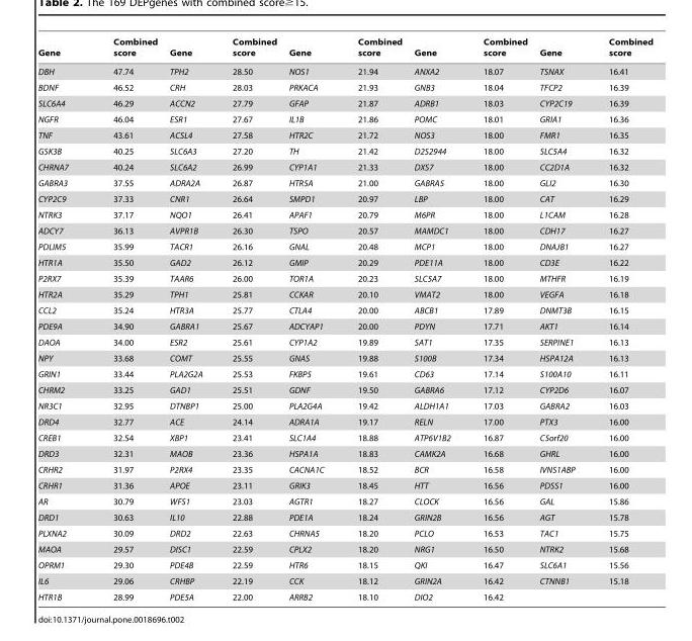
<table><thead><tr><td>Gene</td><td>Combined score</td><td>Gene</td><td>Combined score</td><td>Gene</td><td>Combined score</td><td>Gene</td><td>Combined score</td><td>Gene</td><td>Combined score</td></tr></thead><tbody><tr><td>DBH</td><td>47.74</td><td>TPH2</td><td>28.50</td><td>NOS1</td><td>21.94</td><td>ANXA2</td><td>18.07</td><td>TSNAX</td><td>16.41</td></tr><tr><td>BDNF</td><td>46.52</td><td>CRH</td><td>28.03</td><td>PRKACA</td><td>21.93</td><td>GNB3</td><td>18.04</td><td>TFCP2</td><td>16.39</td></tr><tr><td>SLC6A4</td><td>46.29</td><td>ACCN2</td><td>27.79</td><td>GFAP</td><td>21.87</td><td>ADRB1</td><td>18.03</td><td>CYP2C19</td><td>16.39</td></tr><tr><td>NGFR</td><td>46.04</td><td>ESR1</td><td>27.67</td><td>IL1B</td><td>21.86</td><td>POMC</td><td>18.01</td><td>GRIA1</td><td>16.36</td></tr><tr><td>TNF</td><td>43.61</td><td>ACSL4</td><td>27.58</td><td>HTR2C</td><td>21.72</td><td>NOS3</td><td>18.00</td><td>FMR1</td><td>16.35</td></tr><tr><td>GSK3B</td><td>40.25</td><td>SLC6A3</td><td>27.20</td><td>TH</td><td>21.42</td><td>D2S2944</td><td>18.00</td><td>SLC5A4</td><td>16.32</td></tr><tr><td>CHRNA7</td><td>40.24</td><td>SLC6A2</td><td>26.99</td><td>CYP1A1</td><td>21.33</td><td>DXS7</td><td>18.00</td><td>CC2D1A</td><td>16.32</td></tr><tr><td>GABRA3</td><td>37.55</td><td>ADRA2A</td><td>26.87</td><td>HTR5A</td><td>21.00</td><td>GABRA5</td><td>18.00</td><td>GLI2</td><td>16.30</td></tr><tr><td>CYP2C9</td><td>37.33</td><td>CNR1</td><td>26.64</td><td>SMPD1</td><td>20.97</td><td>LBP</td><td>18.00</td><td>CAT</td><td>16.29</td></tr><tr><td>NTRK3</td><td>37.17</td><td>NQO1</td><td>26.41</td><td>APAF1</td><td>20.79</td><td>M6PR</td><td>18.00</td><td>L1CAM</td><td>16.28</td></tr><tr><td>ADCY7</td><td>36.13</td><td>AVPR1B</td><td>26.30</td><td>TSPO</td><td>20.57</td><td>MAMDC1</td><td>18.00</td><td>CDH17</td><td>16.27</td></tr><tr><td>PDLIM5</td><td>35.99</td><td>TACR1</td><td>26.16</td><td>GNAL</td><td>20.48</td><td>MCP1</td><td>18.00</td><td>DNAJB1</td><td>16.27</td></tr><tr><td>HTR1A</td><td>35.50</td><td>GAD2</td><td>26.12</td><td>GMIP</td><td>20.29</td><td>PDE11A</td><td>18.00</td><td>CD3E</td><td>16.22</td></tr><tr><td>P2RX7</td><td>35.39</td><td>TAAR6</td><td>26.00</td><td>TOR1A</td><td>20.23</td><td>SLC5A7</td><td>18.00</td><td>MTHFR</td><td>16.19</td></tr><tr><td>HTR2A</td><td>35.29</td><td>TPH1</td><td>25.81</td><td>CCKAR</td><td>20.10</td><td>VMAT2</td><td>18.00</td><td>VEGFA</td><td>16.18</td></tr><tr><td>CCL2</td><td>35.24</td><td>HTR3A</td><td>25.77</td><td>CTLA4</td><td>20.00</td><td>ABCB1</td><td>17.89</td><td>DNMT3B</td><td>16.15</td></tr><tr><td>PDE9A</td><td>34.90</td><td>GABRA1</td><td>25.67</td><td>ADCYAP1</td><td>20.00</td><td>PDYN</td><td>17.71</td><td>AKT1</td><td>16.14</td></tr><tr><td>DAOA</td><td>34.00</td><td>ESR2</td><td>25.61</td><td>CYP1A2</td><td>19.89</td><td>SAT1</td><td>17.35</td><td>SERPINE1</td><td>16.13</td></tr><tr><td>NPY</td><td>33.68</td><td>COMT</td><td>25.55</td><td>GNAS</td><td>19.88</td><td>S100B</td><td>17.34</td><td>HSPA12A</td><td>16.13</td></tr><tr><td>GRIN1</td><td>33.44</td><td>PLA2G2A</td><td>25.53</td><td>FKBP5</td><td>19.61</td><td>CD63</td><td>17.14</td><td>S100A10</td><td>16.11</td></tr><tr><td>CHRM2</td><td>33.25</td><td>GAD1</td><td>25.51</td><td>GDNF</td><td>19.50</td><td>GABRA6</td><td>17.12</td><td>CYP2D6</td><td>16.07</td></tr><tr><td>NR3C1</td><td>32.95</td><td>DTNBP1</td><td>25.00</td><td>PLA2G4A</td><td>19.42</td><td>ALDH1A1</td><td>17.03</td><td>GABRA2</td><td>16.03</td></tr><tr><td>DRD4</td><td>32.77</td><td>ACE</td><td>24.14</td><td>ADRA1A</td><td>19.17</td><td>RELN</td><td>17.00</td><td>PTX3</td><td>16.00</td></tr><tr><td>CREB1</td><td>32.54</td><td>XBP1</td><td>23.41</td><td>SLC1A4</td><td>18.88</td><td>ATP6V1B2</td><td>16.87</td><td>C5orf20</td><td>16.00</td></tr><tr><td>DRD3</td><td>32.31</td><td>MAOB</td><td>23.36</td><td>HSPA1A</td><td>18.83</td><td>CAMK2A</td><td>16.68</td><td>GHRL</td><td>16.00</td></tr><tr><td>CRHR2</td><td>31.97</td><td>P2RX4</td><td>23.35</td><td>CACNA1C</td><td>18.52</td><td>BCR</td><td>16.58</td><td>IVNS1ABP</td><td>16.00</td></tr><tr><td>CRHR1</td><td>31.36</td><td>APOE</td><td>23.11</td><td>GRIK3</td><td>18.45</td><td>HTT</td><td>16.56</td><td>PDSS1</td><td>16.00</td></tr><tr><td>AR</td><td>30.79</td><td>WFS1</td><td>23.03</td><td>AGTR1</td><td>18.27</td><td>CLOCK</td><td>16.56</td><td>GAL</td><td>15.86</td></tr><tr><td>DRD1</td><td>30.63</td><td>IL10</td><td>22.88</td><td>PDE1A</td><td>18.24</td><td>GRIN2B</td><td>16.56</td><td>AGT</td><td>15.78</td></tr><tr><td>PLXNA2</td><td>30.09</td><td>DRD2</td><td>22.63</td><td>CHRNA5</td><td>18.20</td><td>PCLO</td><td>16.53</td><td>TAC1</td><td>15.75</td></tr><tr><td>MAOA</td><td>29.57</td><td>DISC1</td><td>22.59</td><td>CPLX2</td><td>18.20</td><td>NRG1</td><td>16.50</td><td>NTRK2</td><td>15.68</td></tr><tr><td>OPRM1</td><td>29.30</td><td>PDE4B</td><td>22.59</td><td>HTR6</td><td>18.15</td><td>QKI</td><td>16.47</td><td>SLC6A1</td><td>15.56</td></tr><tr><td>IL6</td><td>29.06</td><td>CRHBP</td><td>22.19</td><td>CCK</td><td>18.12</td><td>GRIN2A</td><td>16.42</td><td>CTNNB1</td><td>15.18</td></tr><tr><td>HTR1B</td><td>28.99</td><td>PDE5A</td><td>22.00</td><td>ARRB2</td><td>18.10</td><td>DIO2</td><td>16.42</td><td></td><td></td></tr></tbody></table>